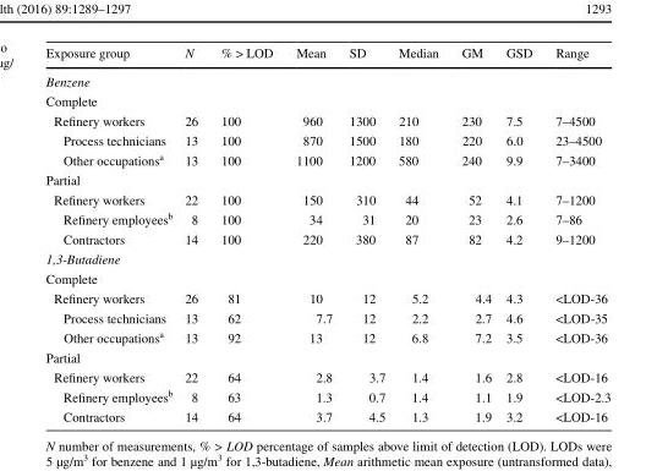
<table><thead><tr><td>Exposure group</td><td>N</td><td>% &gt; LOD</td><td>Mean</td><td>SD</td><td>Median</td><td>GM</td><td>GSD</td><td>Range</td></tr></thead><tbody><tr><td colspan="9">Benzene</td></tr><tr><td colspan="9">Complete</td></tr><tr><td>Refinery workers</td><td>26</td><td>100</td><td>960</td><td>1300</td><td>210</td><td>230</td><td>7.5</td><td>7–4500</td></tr><tr><td>Process technicians</td><td>13</td><td>100</td><td>870</td><td>1500</td><td>180</td><td>220</td><td>6.0</td><td>23–4500</td></tr><tr><td>Other occupations<sup>a</sup></td><td>13</td><td>100</td><td>1100</td><td>1200</td><td>580</td><td>240</td><td>9.9</td><td>7–3400</td></tr><tr><td colspan="9">Partial</td></tr><tr><td>Refinery workers</td><td>22</td><td>100</td><td>150</td><td>310</td><td>44</td><td>52</td><td>4.1</td><td>7–1200</td></tr><tr><td>Refinery employees<sup>b</sup></td><td>8</td><td>100</td><td>34</td><td>31</td><td>20</td><td>23</td><td>2.6</td><td>7–86</td></tr><tr><td>Contractors</td><td>14</td><td>100</td><td>220</td><td>380</td><td>87</td><td>82</td><td>4.2</td><td>9–1200</td></tr><tr><td colspan="9">1,3-Butadiene</td></tr><tr><td colspan="9">Complete</td></tr><tr><td>Refinery workers</td><td>26</td><td>81</td><td>10</td><td>12</td><td>5.2</td><td>4.4</td><td>4.3</td><td>&lt;LOD-36</td></tr><tr><td>Process technicians</td><td>13</td><td>62</td><td>7.7</td><td>12</td><td>2.2</td><td>2.7</td><td>4.6</td><td>&lt;LOD-35</td></tr><tr><td>Other occupations<sup>a</sup></td><td>13</td><td>92</td><td>13</td><td>12</td><td>6.8</td><td>7.2</td><td>3.5</td><td>&lt;LOD-36</td></tr><tr><td colspan="9">Partial</td></tr><tr><td>Refinery workers</td><td>22</td><td>64</td><td>2.8</td><td>3.7</td><td>1.4</td><td>1.6</td><td>2.8</td><td>&lt;LOD-16</td></tr><tr><td>Refinery employees<sup>b</sup></td><td>8</td><td>63</td><td>1.3</td><td>0.7</td><td>1.4</td><td>1.1</td><td>1.9</td><td>&lt;LOD-2.3</td></tr><tr><td>Contractors</td><td>14</td><td>64</td><td>3.7</td><td>4.5</td><td>1.3</td><td>1.9</td><td>3.2</td><td>&lt;LOD-16</td></tr></tbody></table>